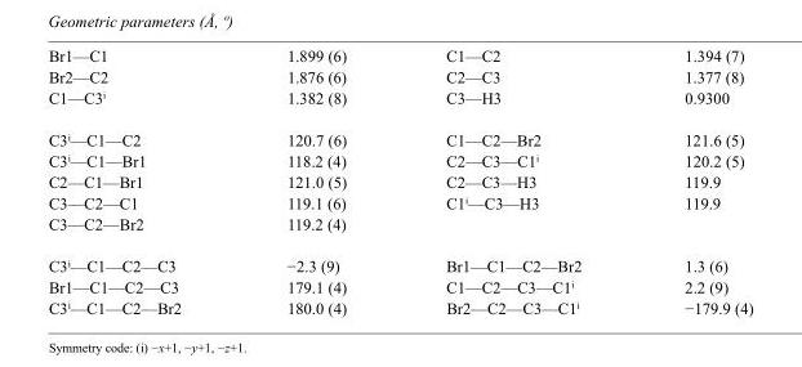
<table><tbody><tr><td>Br1—C1</td><td>1.899 (6)</td><td>C1—C2</td><td>1.394 (7)</td></tr><tr><td>Br2—C2</td><td>1.876 (6)</td><td>C2—C3</td><td>1.377 (8)</td></tr><tr><td>C1—C3<sup>i</sup></td><td>1.382 (8)</td><td>C3—H3</td><td>0.9300</td></tr><tr><td>C3<sup>i</sup>—C1—C2</td><td>120.7 (6)</td><td>C1—C2—Br2</td><td>121.6 (5)</td></tr><tr><td>C3<sup>i</sup>—C1—Br1</td><td>118.2 (4)</td><td>C2—C3—C1<sup>i</sup></td><td>120.2 (5)</td></tr><tr><td>C2—C1—Br1</td><td>121.0 (5)</td><td>C2—C3—H3</td><td>119.9</td></tr><tr><td>C3—C2—C1</td><td>119.1 (6)</td><td>C1<sup>i</sup>—C3—H3</td><td>119.9</td></tr><tr><td>C3—C2—Br2</td><td>119.2 (4)</td><td></td><td></td></tr><tr><td>C3<sup>i</sup>—C1—C2—C3</td><td>−2.3 (9)</td><td>Br1—C1—C2—Br2</td><td>1.3 (6)</td></tr><tr><td>Br1—C1—C2—C3</td><td>179.1 (4)</td><td>C1—C2—C3—C1<sup>i</sup></td><td>2.2 (9)</td></tr><tr><td>C3<sup>i</sup>—C1—C2—Br2</td><td>180.0 (4)</td><td>Br2—C2—C3—C1<sup>i</sup></td><td>−179.9 (4)</td></tr></tbody></table>